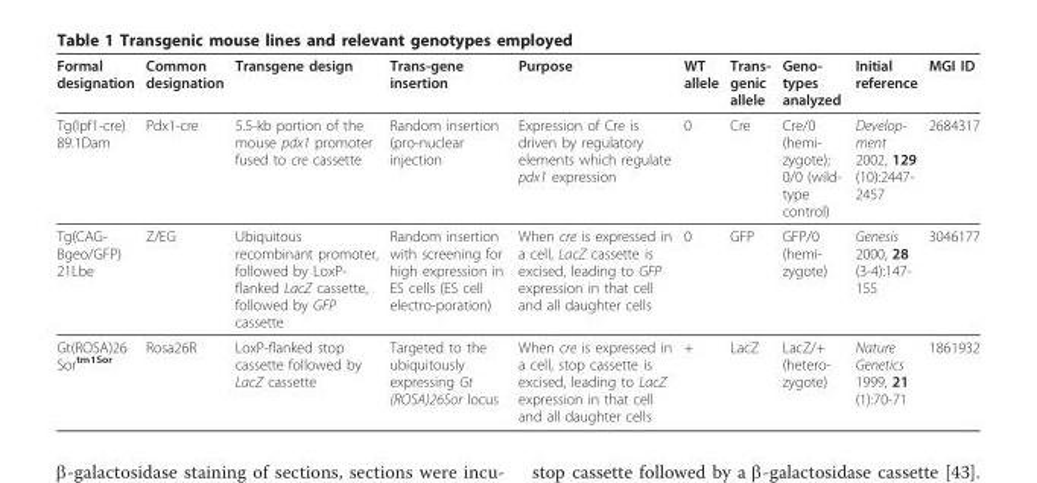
<table><thead><tr><td>Formal designation</td><td>Common designation</td><td>Transgene design</td><td>Trans-gene insertion</td><td>Purpose</td><td>WT allele</td><td>Trans- genic allele</td><td>Geno- types analyzed</td><td>Initial reference</td><td>MGI ID</td></tr></thead><tbody><tr><td>Tg(Ipf1-cre) 89.1Dam</td><td>Pdx1-cre</td><td>5.5-kb portion of the mouse pdx1 promoter fused to cre cassette</td><td>Random insertion (pro-nuclear injection</td><td>Expression of Cre is driven by regulatory elements which regulate pdx1 expression</td><td>0</td><td>Cre</td><td>Cre/0 (hemi- zygote); 0/0 (wild- type control)</td><td>Develop- ment 2002, 129 (10):2447- 2457</td><td>2684317</td></tr><tr><td>Tg(CAG- Bgeo/GFP) 21Lbe</td><td>Z/EG</td><td>Ubiquitous recombinant promoter, followed by LoxP- flanked LacZ cassette, followed by GFP cassette</td><td>Random insertion with screening for high expression in ES cells (ES cell electro-poration)</td><td>When cre is expressed in a cell, LacZ cassette is excised, leading to GFP expression in that cell and all daughter cells</td><td>0</td><td>GFP</td><td>GFP/0 (hemi- zygote)</td><td>Genesis 2000, 28 (3-4):147- 155</td><td>3046177</td></tr><tr><td>Gt(ROSA)26 Sor<sup>tm1Sor</sup></td><td>Rosa26R</td><td>LoxP-flanked stop cassette followed by LacZ cassette</td><td>Targeted to the ubiquitously expressing Gt (ROSA)26Sor locus</td><td>When cre is expressed in a cell, stop cassette is excised, leading to LacZ expression in that cell and all daughter cells</td><td>+</td><td>LacZ</td><td>LacZ/+ (hetero- zygote)</td><td>Nature Genetics 1999, 21 (1):70-71</td><td>1861932</td></tr></tbody></table>